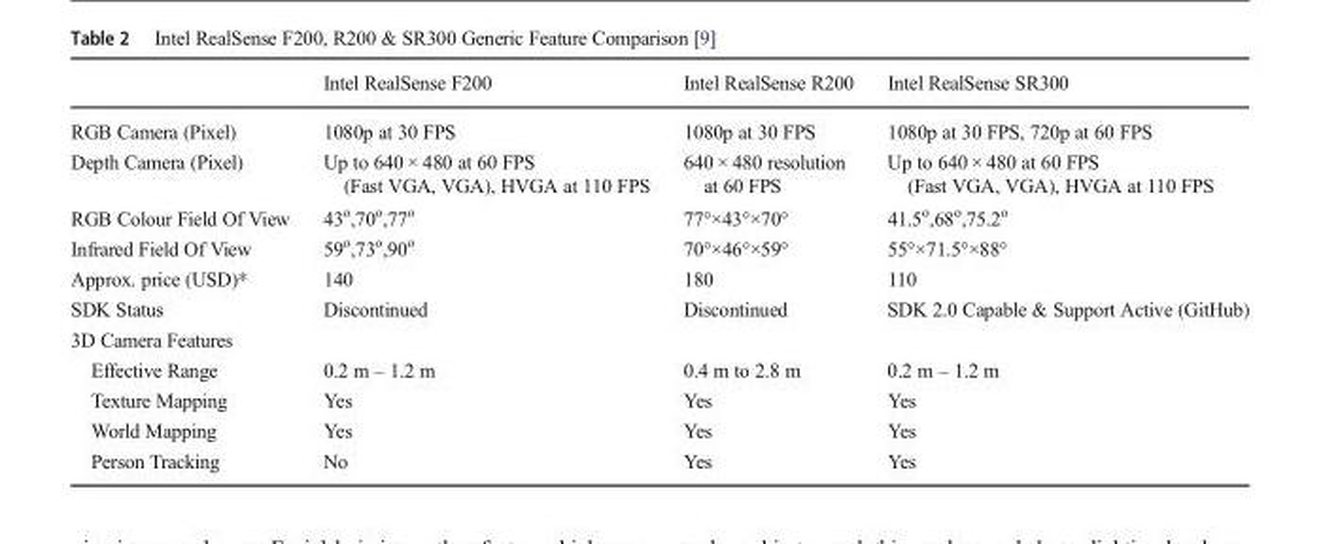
<table><thead><tr><td></td><td>Intel RealSense F200</td><td>Intel RealSense R200</td><td>Intel RealSense SR300</td></tr></thead><tbody><tr><td>RGB Camera (Pixel)</td><td>1080p at 30 FPS</td><td>1080p at 30 FPS</td><td>1080p at 30 FPS, 720p at 60 FPS</td></tr><tr><td>Depth Camera (Pixel)</td><td>Up to 640 × 480 at 60 FPS (Fast VGA, VGA), HVGA at 110 FPS</td><td>640 × 480 resolution at 60 FPS</td><td>Up to 640 × 480 at 60 FPS (Fast VGA, VGA), HVGA at 110 FPS</td></tr><tr><td>RGB Colour Field Of View</td><td>43<sup>o</sup>,70<sup>o</sup>,77<sup>o</sup></td><td>77°×43°×70°</td><td>41.5<sup>o</sup>,68<sup>o</sup>,75.2<sup>o</sup></td></tr><tr><td>Infrared Field Of View</td><td>59<sup>o</sup>,73<sup>o</sup>,90<sup>o</sup></td><td>70°×46°×59°</td><td>55°×71.5°×88°</td></tr><tr><td>Approx. price (USD)*</td><td>140</td><td>180</td><td>110</td></tr><tr><td>SDK Status</td><td>Discontinued</td><td>Discontinued</td><td>SDK 2.0 Capable &amp; Support Active (GitHub)</td></tr><tr><td colspan="4">3D Camera Features</td></tr><tr><td>Effective Range</td><td>0.2 m – 1.2 m</td><td>0.4 m to 2.8 m</td><td>0.2 m – 1.2 m</td></tr><tr><td>Texture Mapping</td><td>Yes</td><td>Yes</td><td>Yes</td></tr><tr><td>World Mapping</td><td>Yes</td><td>Yes</td><td>Yes</td></tr><tr><td>Person Tracking</td><td>No</td><td>Yes</td><td>Yes</td></tr></tbody></table>